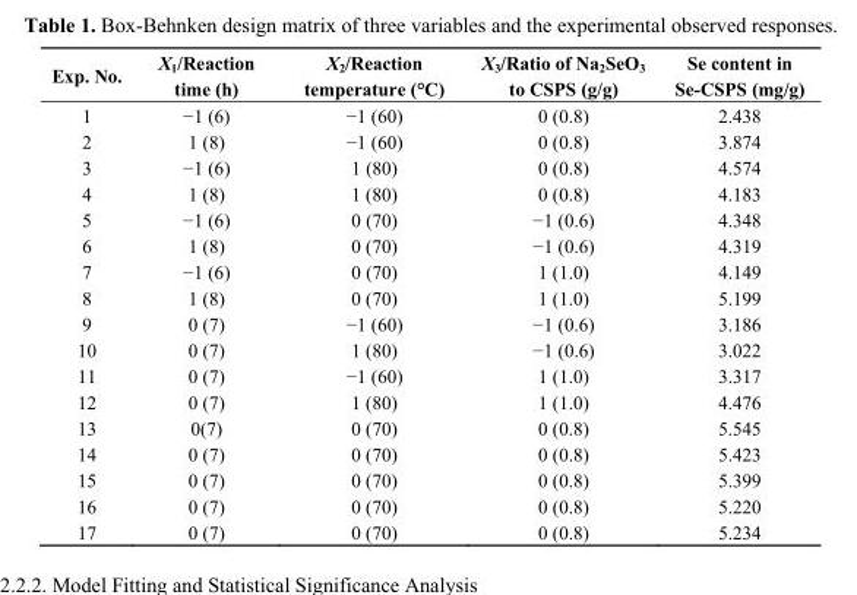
<table><thead><tr><td>Exp. No.</td><td>X<sub>1</sub>/Reaction time (h)</td><td>X<sub>2</sub>/Reaction temperature (°C)</td><td>X<sub>3</sub>/Ratio of Na<sub>2</sub>SeO<sub>3</sub> to CSPS (g/g)</td><td>Se content in Se-CSPS (mg/g)</td></tr></thead><tbody><tr><td>1</td><td>−1 (6)</td><td>−1 (60)</td><td>0 (0.8)</td><td>2.438</td></tr><tr><td>2</td><td>1 (8)</td><td>−1 (60)</td><td>0 (0.8)</td><td>3.874</td></tr><tr><td>3</td><td>−1 (6)</td><td>1 (80)</td><td>0 (0.8)</td><td>4.574</td></tr><tr><td>4</td><td>1 (8)</td><td>1 (80)</td><td>0 (0.8)</td><td>4.183</td></tr><tr><td>5</td><td>−1 (6)</td><td>0 (70)</td><td>−1 (0.6)</td><td>4.348</td></tr><tr><td>6</td><td>1 (8)</td><td>0 (70)</td><td>−1 (0.6)</td><td>4.319</td></tr><tr><td>7</td><td>−1 (6)</td><td>0 (70)</td><td>1 (1.0)</td><td>4.149</td></tr><tr><td>8</td><td>1 (8)</td><td>0 (70)</td><td>1 (1.0)</td><td>5.199</td></tr><tr><td>9</td><td>0 (7)</td><td>−1 (60)</td><td>−1 (0.6)</td><td>3.186</td></tr><tr><td>10</td><td>0 (7)</td><td>1 (80)</td><td>−1 (0.6)</td><td>3.022</td></tr><tr><td>11</td><td>0 (7)</td><td>−1 (60)</td><td>1 (1.0)</td><td>3.317</td></tr><tr><td>12</td><td>0 (7)</td><td>1 (80)</td><td>1 (1.0)</td><td>4.476</td></tr><tr><td>13</td><td>0(7)</td><td>0 (70)</td><td>0 (0.8)</td><td>5.545</td></tr><tr><td>14</td><td>0 (7)</td><td>0 (70)</td><td>0 (0.8)</td><td>5.423</td></tr><tr><td>15</td><td>0 (7)</td><td>0 (70)</td><td>0 (0.8)</td><td>5.399</td></tr><tr><td>16</td><td>0 (7)</td><td>0 (70)</td><td>0 (0.8)</td><td>5.220</td></tr><tr><td>17</td><td>0 (7)</td><td>0 (70)</td><td>0 (0.8)</td><td>5.234</td></tr></tbody></table>